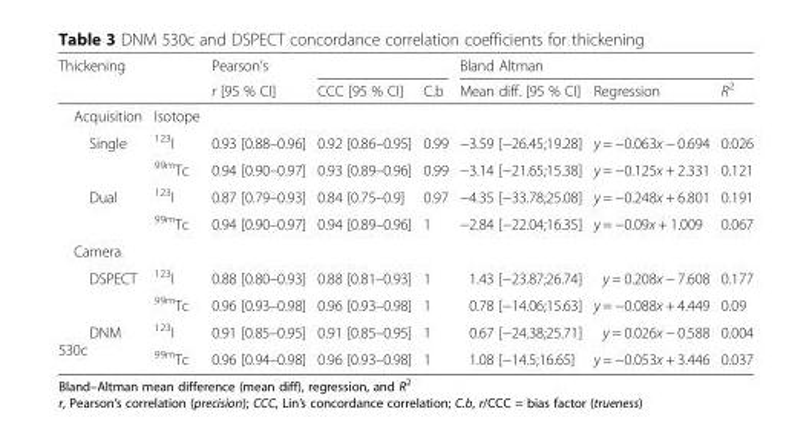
<table><thead><tr><td rowspan="2">Thickening</td><td rowspan="2"></td><td rowspan="2">Pearson’s r [95 % CI]</td><td rowspan="2">CCC [95 % CI]</td><td rowspan="2">C.b</td><td colspan="3">Bland Altman</td></tr><tr><td>Mean diff. [95 % CI]</td><td>Regression</td><td>R<sup>2</sup></td></tr></thead><tbody><tr><td>Acquisition</td><td>Isotope</td><td></td><td></td><td></td><td></td><td></td><td></td></tr><tr><td rowspan="2">Single</td><td><sup>123</sup>I</td><td>0.93 [0.88–0.96]</td><td>0.92 [0.86–0.95]</td><td>0.99</td><td>−3.59 [−26.45;19.28]</td><td>y = −0.063x − 0.694</td><td>0.026</td></tr><tr><td><sup>99m</sup>Tc</td><td>0.94 [0.90–0.97]</td><td>0.93 [0.89–0.96]</td><td>0.99</td><td>−3.14 [−21.65;15.38]</td><td>y = −0.125x + 2.331</td><td>0.121</td></tr><tr><td rowspan="2">Dual</td><td><sup>123</sup>I</td><td>0.87 [0.79–0.93]</td><td>0.84 [0.75–0.9]</td><td>0.97</td><td>−4.35 [−33.78;25.08]</td><td>y = −0.248x + 6.801</td><td>0.191</td></tr><tr><td><sup>99m</sup>Tc</td><td>0.94 [0.90–0.97]</td><td>0.94 [0.89–0.96]</td><td>1</td><td>−2.84 [−22.04;16.35]</td><td>y = −0.09x + 1.009</td><td>0.067</td></tr><tr><td colspan="8">Camera</td></tr><tr><td rowspan="2">DSPECT</td><td><sup>123</sup>I</td><td>0.88 [0.80–0.93]</td><td>0.88 [0.81–0.93]</td><td>1</td><td>1.43 [−23.87;26.74]</td><td>y = 0.208x − 7.608</td><td>0.177</td></tr><tr><td><sup>99m</sup>Tc</td><td>0.96 [0.93–0.98]</td><td>0.96 [0.93–0.98]</td><td>1</td><td>0.78 [−14.06;15.63]</td><td>y = −0.088x + 4.449</td><td>0.09</td></tr><tr><td rowspan="2">DNM 530c</td><td><sup>123</sup>I</td><td>0.91 [0.85–0.95]</td><td>0.91 [0.85–0.95]</td><td>1</td><td>0.67 [−24.38;25.71]</td><td>y = 0.026x − 0.588</td><td>0.004</td></tr><tr><td><sup>99m</sup>Tc</td><td>0.96 [0.94–0.98]</td><td>0.96 [0.93–0.98]</td><td>1</td><td>1.08 [−14.5;16.65]</td><td>y = −0.053x + 3.446</td><td>0.037</td></tr></tbody></table>